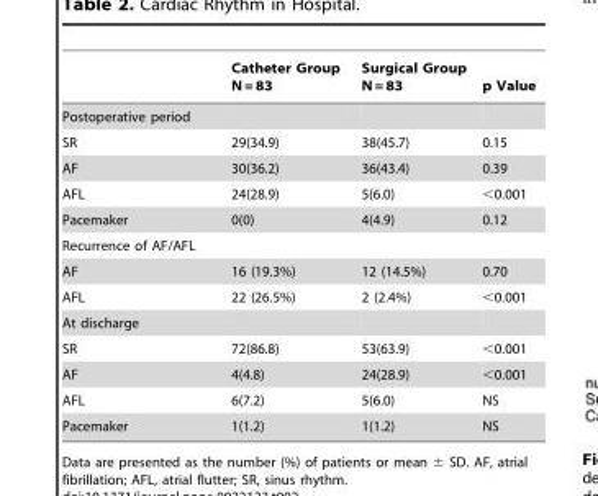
<table><thead><tr><td></td><td>Catheter Group N = 83</td><td>Surgical Group N = 83</td><td>p Value</td></tr></thead><tbody><tr><td colspan="4">Postoperative period</td></tr><tr><td>SR</td><td>29(34.9)</td><td>38(45.7)</td><td>0.15</td></tr><tr><td>AF</td><td>30(36.2)</td><td>36(43.4)</td><td>0.39</td></tr><tr><td>AFL</td><td>24(28.9)</td><td>5(6.0)</td><td>&lt;0.001</td></tr><tr><td>Pacemaker</td><td>0(0)</td><td>4(4.9)</td><td>0.12</td></tr><tr><td colspan="4">Recurrence of AF/AFL</td></tr><tr><td>AF</td><td>16 (19.3%)</td><td>12 (14.5%)</td><td>0.70</td></tr><tr><td>AFL</td><td>22 (26.5%)</td><td>2 (2.4%)</td><td>&lt;0.001</td></tr><tr><td colspan="4">At discharge</td></tr><tr><td>SR</td><td>72(86.8)</td><td>53(63.9)</td><td>&lt;0.001</td></tr><tr><td>AF</td><td>4(4.8)</td><td>24(28.9)</td><td>&lt;0.001</td></tr><tr><td>AFL</td><td>6(7.2)</td><td>5(6.0)</td><td>NS</td></tr><tr><td>Pacemaker</td><td>1(1.2)</td><td>1(1.2)</td><td>NS</td></tr></tbody></table>